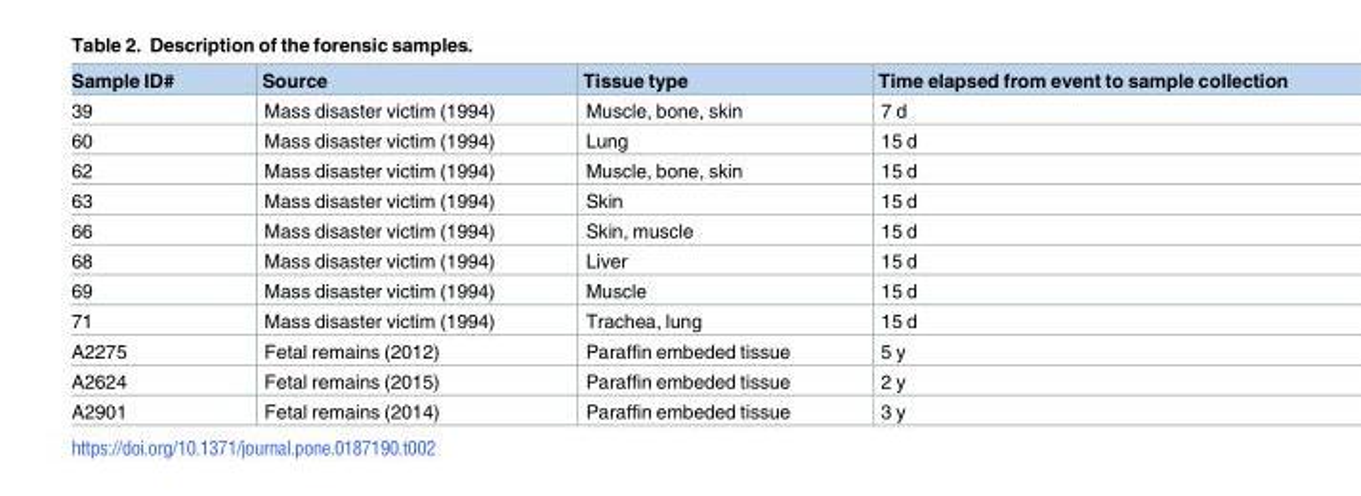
<table><thead><tr><td>Sample ID#</td><td>Source</td><td>Tissue type</td><td>Time elapsed from event to sample collection</td></tr></thead><tbody><tr><td>39</td><td>Mass disaster victim (1994)</td><td>Muscle, bone, skin</td><td>7 d</td></tr><tr><td>60</td><td>Mass disaster victim (1994)</td><td>Lung</td><td>15 d</td></tr><tr><td>62</td><td>Mass disaster victim (1994)</td><td>Muscle, bone, skin</td><td>15 d</td></tr><tr><td>63</td><td>Mass disaster victim (1994)</td><td>Skin</td><td>15 d</td></tr><tr><td>66</td><td>Mass disaster victim (1994)</td><td>Skin, muscle</td><td>15 d</td></tr><tr><td>68</td><td>Mass disaster victim (1994)</td><td>Liver</td><td>15 d</td></tr><tr><td>69</td><td>Mass disaster victim (1994)</td><td>Muscle</td><td>15 d</td></tr><tr><td>71</td><td>Mass disaster victim (1994)</td><td>Trachea, lung</td><td>15 d</td></tr><tr><td>A2275</td><td>Fetal remains (2012)</td><td>Paraffin embeded tissue</td><td>5 y</td></tr><tr><td>A2624</td><td>Fetal remains (2015)</td><td>Paraffin embeded tissue</td><td>2 y</td></tr><tr><td>A2901</td><td>Fetal remains (2014)</td><td>Paraffin embeded tissue</td><td>3 y</td></tr></tbody></table>